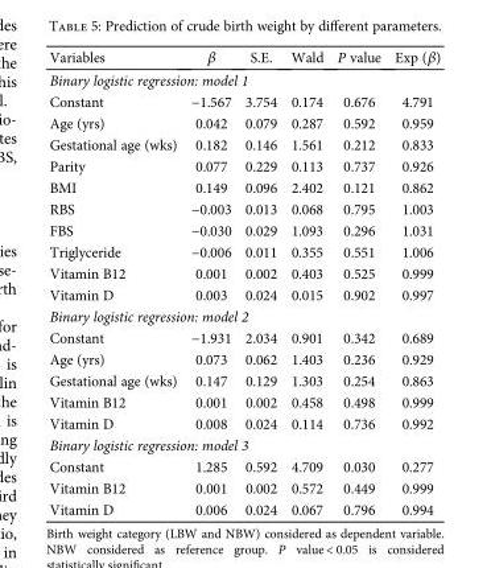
<table><thead><tr><td>Variables</td><td>β</td><td>S.E.</td><td>Wald</td><td>P value</td><td>Exp (β)</td></tr></thead><tbody><tr><td colspan="6">Binary logistic regression: model 1</td></tr><tr><td>Constant</td><td>−1.567</td><td>3.754</td><td>0.174</td><td>0.676</td><td>4.791</td></tr><tr><td>Age (yrs)</td><td>0.042</td><td>0.079</td><td>0.287</td><td>0.592</td><td>0.959</td></tr><tr><td>Gestational age (wks)</td><td>0.182</td><td>0.146</td><td>1.561</td><td>0.212</td><td>0.833</td></tr><tr><td>Parity</td><td>0.077</td><td>0.229</td><td>0.113</td><td>0.737</td><td>0.926</td></tr><tr><td>BMI</td><td>0.149</td><td>0.096</td><td>2.402</td><td>0.121</td><td>0.862</td></tr><tr><td>RBS</td><td>−0.003</td><td>0.013</td><td>0.068</td><td>0.795</td><td>1.003</td></tr><tr><td>FBS</td><td>−0.030</td><td>0.029</td><td>1.093</td><td>0.296</td><td>1.031</td></tr><tr><td>Triglyceride</td><td>−0.006</td><td>0.011</td><td>0.355</td><td>0.551</td><td>1.006</td></tr><tr><td>Vitamin B12</td><td>0.001</td><td>0.002</td><td>0.403</td><td>0.525</td><td>0.999</td></tr><tr><td>Vitamin D</td><td>0.003</td><td>0.024</td><td>0.015</td><td>0.902</td><td>0.997</td></tr><tr><td colspan="6">Binary logistic regression: model 2</td></tr><tr><td>Constant</td><td>−1.931</td><td>2.034</td><td>0.901</td><td>0.342</td><td>0.689</td></tr><tr><td>Age (yrs)</td><td>0.073</td><td>0.062</td><td>1.403</td><td>0.236</td><td>0.929</td></tr><tr><td>Gestational age (wks)</td><td>0.147</td><td>0.129</td><td>1.303</td><td>0.254</td><td>0.863</td></tr><tr><td>Vitamin B12</td><td>0.001</td><td>0.002</td><td>0.458</td><td>0.498</td><td>0.999</td></tr><tr><td>Vitamin D</td><td>0.008</td><td>0.024</td><td>0.114</td><td>0.736</td><td>0.992</td></tr><tr><td colspan="6">Binary logistic regression: model 3</td></tr><tr><td>Constant</td><td>1.285</td><td>0.592</td><td>4.709</td><td>0.030</td><td>0.277</td></tr><tr><td>Vitamin B12</td><td>0.001</td><td>0.002</td><td>0.572</td><td>0.449</td><td>0.999</td></tr><tr><td>Vitamin D</td><td>0.006</td><td>0.024</td><td>0.067</td><td>0.796</td><td>0.994</td></tr></tbody></table>